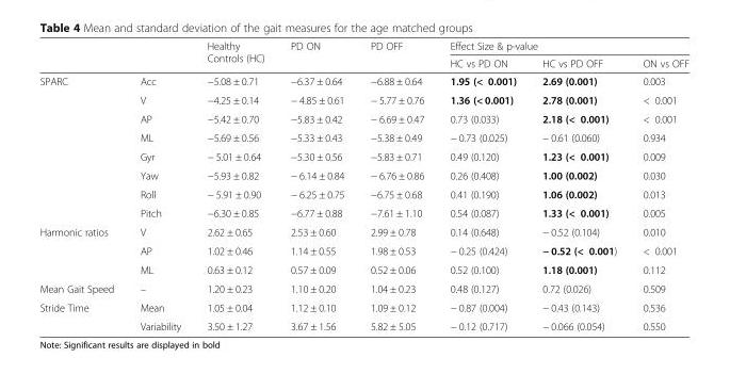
<table><thead><tr><td rowspan="2"></td><td rowspan="2"></td><td rowspan="2">Healthy Controls (HC)</td><td rowspan="2">PD ON</td><td rowspan="2">PD OFF</td><td colspan="3">Effect Size &amp; p-value</td></tr><tr><td>HC vs PD ON</td><td>HC vs PD OFF</td><td>ON vs OFF</td></tr></thead><tbody><tr><td rowspan="8">SPARC</td><td>Acc</td><td>−5.08 ± 0.71</td><td>−6.37 ± 0.64</td><td>−6.88 ± 0.64</td><td>1.95 (&lt; 0.001)</td><td>2.69 (0.001)</td><td>0.003</td></tr><tr><td>V</td><td>−4.25 ± 0.14</td><td>− 4.85 ± 0.61</td><td>− 5.77 ± 0.76</td><td>1.36 (&lt; 0.001)</td><td>2.78 (0.001)</td><td>&lt; 0.001</td></tr><tr><td>AP</td><td>−5.42 ± 0.70</td><td>−5.83 ± 0.42</td><td>− 6.69 ± 0.47</td><td>0.73 (0.033)</td><td>2.18 (&lt; 0.001)</td><td>&lt; 0.001</td></tr><tr><td>ML</td><td>−5.69 ± 0.56</td><td>−5.33 ± 0.43</td><td>−5.38 ± 0.49</td><td>− 0.73 (0.025)</td><td>− 0.61 (0.060)</td><td>0.934</td></tr><tr><td>Gyr</td><td>− 5.01 ± 0.64</td><td>−5.30 ± 0.56</td><td>−5.83 ± 0.71</td><td>0.49 (0.120)</td><td>1.23 (&lt; 0.001)</td><td>0.009</td></tr><tr><td>Yaw</td><td>−5.93 ± 0.82</td><td>− 6.14 ± 0.84</td><td>− 6.76 ± 0.86</td><td>0.26 (0.408)</td><td>1.00 (0.002)</td><td>0.030</td></tr><tr><td>Roll</td><td>− 5.91 ± 0.90</td><td>− 6.25 ± 0.75</td><td>−6.75 ± 0.68</td><td>0.41 (0.190)</td><td>1.06 (0.002)</td><td>0.013</td></tr><tr><td>Pitch</td><td>−6.30 ± 0.85</td><td>−6.77 ± 0.88</td><td>−7.61 ± 1.10</td><td>0.54 (0.087)</td><td>1.33 (&lt; 0.001)</td><td>0.005</td></tr><tr><td rowspan="3">Harmonic ratios</td><td>V</td><td>2.62 ± 0.65</td><td>2.53 ± 0.60</td><td>2.99 ± 0.78</td><td>0.14 (0.648)</td><td>− 0.52 (0.104)</td><td>0.010</td></tr><tr><td>AP</td><td>1.02 ± 0.46</td><td>1.14 ± 0.55</td><td>1.98 ± 0.53</td><td>− 0.25 (0.424)</td><td>− 0.52 (&lt; 0.001)</td><td>&lt; 0.001</td></tr><tr><td>ML</td><td>0.63 ± 0.12</td><td>0.57 ± 0.09</td><td>0.52 ± 0.06</td><td>0.52 (0.100)</td><td>1.18 (0.001)</td><td>0.112</td></tr><tr><td>Mean Gait Speed</td><td>–</td><td>1.20 ± 0.23</td><td>1.10 ± 0.20</td><td>1.04 ± 0.23</td><td>0.48 (0.127)</td><td>0.72 (0.026)</td><td>0.509</td></tr><tr><td rowspan="2">Stride Time</td><td>Mean</td><td>1.05 ± 0.04</td><td>1.12 ± 0.10</td><td>1.09 ± 0.12</td><td>− 0.87 (0.004)</td><td>− 0.43 (0.143)</td><td>0.536</td></tr><tr><td>Variability</td><td>3.50 ± 1.27</td><td>3.67 ± 1.56</td><td>5.82 ± 5.05</td><td>− 0.12 (0.717)</td><td>− 0.066 (0.054)</td><td>0.550</td></tr></tbody></table>